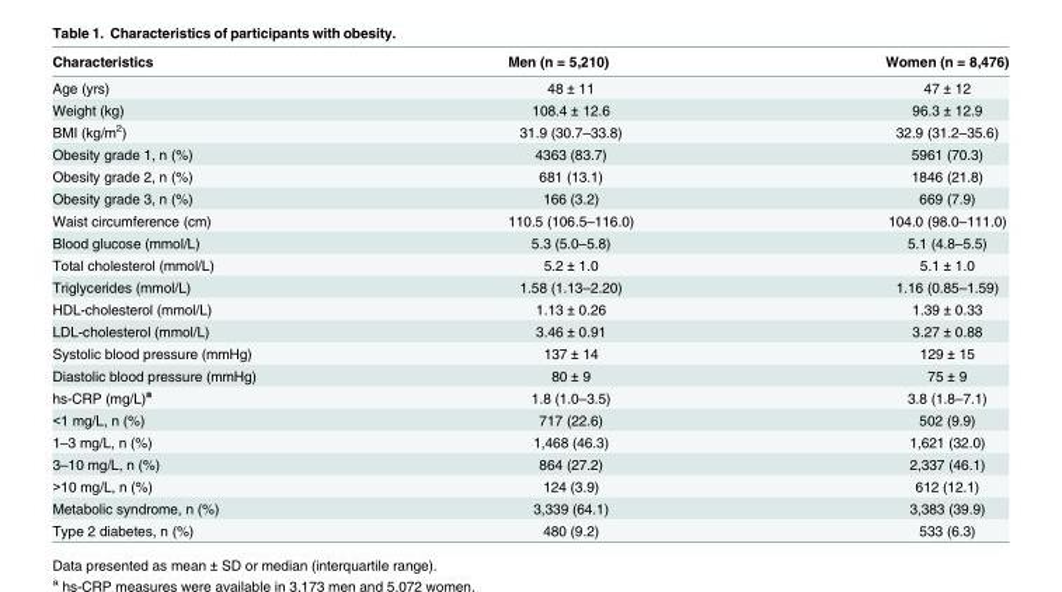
<table><thead><tr><td>Characteristics</td><td>Men (n = 5,210)</td><td>Women (n = 8,476)</td></tr></thead><tbody><tr><td>Age (yrs)</td><td>48 ± 11</td><td>47 ± 12</td></tr><tr><td>Weight (kg)</td><td>108.4 ± 12.6</td><td>96.3 ± 12.9</td></tr><tr><td>BMI (kg/m<sup>2</sup>)</td><td>31.9 (30.7–33.8)</td><td>32.9 (31.2–35.6)</td></tr><tr><td>Obesity grade 1, n (%)</td><td>4363 (83.7)</td><td>5961 (70.3)</td></tr><tr><td>Obesity grade 2, n (%)</td><td>681 (13.1)</td><td>1846 (21.8)</td></tr><tr><td>Obesity grade 3, n (%)</td><td>166 (3.2)</td><td>669 (7.9)</td></tr><tr><td>Waist circumference (cm)</td><td>110.5 (106.5–116.0)</td><td>104.0 (98.0–111.0)</td></tr><tr><td>Blood glucose (mmol/L)</td><td>5.3 (5.0–5.8)</td><td>5.1 (4.8–5.5)</td></tr><tr><td>Total cholesterol (mmol/L)</td><td>5.2 ± 1.0</td><td>5.1 ± 1.0</td></tr><tr><td>Triglycerides (mmol/L)</td><td>1.58 (1.13–2.20)</td><td>1.16 (0.85–1.59)</td></tr><tr><td>HDL-cholesterol (mmol/L)</td><td>1.13 ± 0.26</td><td>1.39 ± 0.33</td></tr><tr><td>LDL-cholesterol (mmol/L)</td><td>3.46 ± 0.91</td><td>3.27 ± 0.88</td></tr><tr><td>Systolic blood pressure (mmHg)</td><td>137 ± 14</td><td>129 ± 15</td></tr><tr><td>Diastolic blood pressure (mmHg)</td><td>80 ± 9</td><td>75 ± 9</td></tr><tr><td>hs-CRP (mg/L)<sup>a</sup></td><td>1.8 (1.0–3.5)</td><td>3.8 (1.8–7.1)</td></tr><tr><td>&lt;1 mg/L, n (%)</td><td>717 (22.6)</td><td>502 (9.9)</td></tr><tr><td>1–3 mg/L, n (%)</td><td>1,468 (46.3)</td><td>1,621 (32.0)</td></tr><tr><td>3–10 mg/L, n (%)</td><td>864 (27.2)</td><td>2,337 (46.1)</td></tr><tr><td>&gt;10 mg/L, n (%)</td><td>124 (3.9)</td><td>612 (12.1)</td></tr><tr><td>Metabolic syndrome, n (%)</td><td>3,339 (64.1)</td><td>3,383 (39.9)</td></tr><tr><td>Type 2 diabetes, n (%)</td><td>480 (9.2)</td><td>533 (6.3)</td></tr></tbody></table>